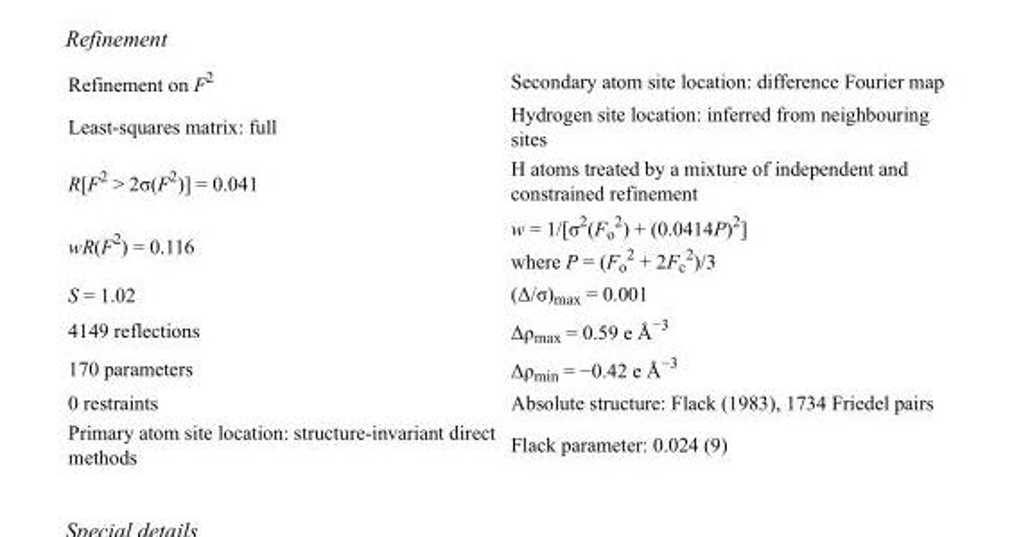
<table><tbody><tr><td>Refinement on F<sup>2</sup></td><td>Secondary atom site location: difference Fourier map</td></tr><tr><td>Least-squares matrix: full</td><td>Hydrogen site location: inferred from neighbouring sites</td></tr><tr><td>R[F<sup>2</sup> &gt; 2σ(F<sup>2</sup>)] = 0.041</td><td>H atoms treated by a mixture of independent and constrained refinement</td></tr><tr><td>wR(F<sup>2</sup>) = 0.116</td><td>w = 1/[σ<sup>2</sup>(F<sub>o</sub> <sup>2</sup>) + (0.0414P)<sup>2</sup>] where P = (F<sub>o</sub> <sup>2</sup> + 2F<sub>c</sub> <sup>2</sup>)/3</td></tr><tr><td>S = 1.02</td><td>(Δ/σ)<sub>max</sub> = 0.001</td></tr><tr><td>4149 reflections</td><td>Δρ<sub>max</sub> = 0.59 e Å<sup>−3</sup></td></tr><tr><td>170 parameters</td><td>Δρ<sub>min</sub> = −0.42 e Å<sup>−3</sup></td></tr><tr><td>0 restraints</td><td>Absolute structure: Flack (1983), 1734 Friedel pairs</td></tr><tr><td>Primary atom site location: structure-invariant direct methods</td><td>Flack parameter: 0.024 (9)</td></tr></tbody></table>